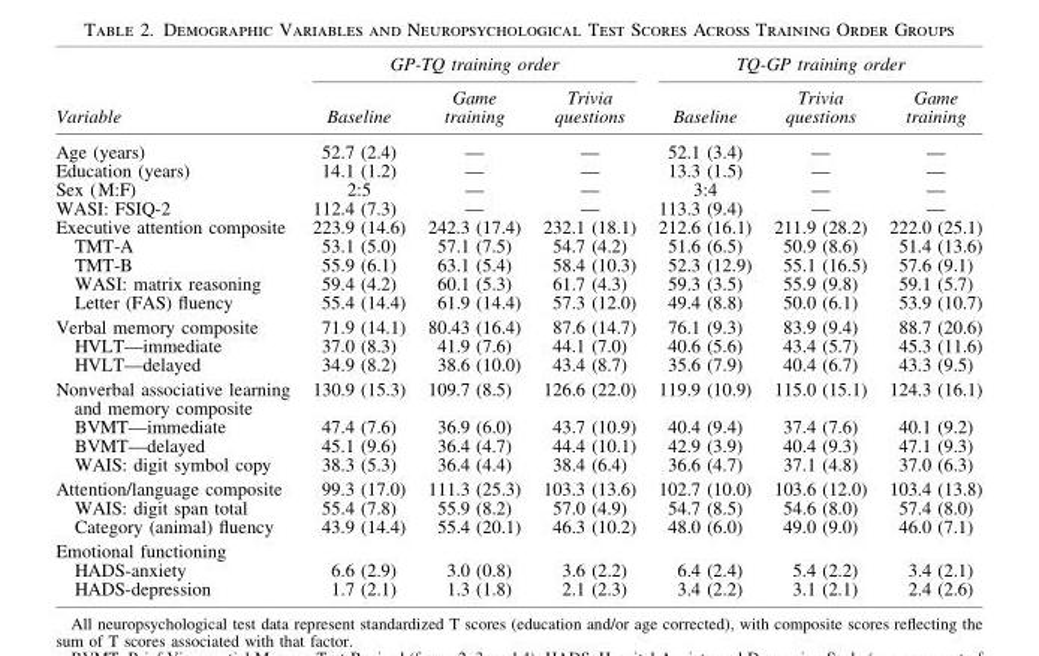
<table><thead><tr><td rowspan="2">Variable</td><td colspan="3">GP-TQ training order</td><td colspan="3">TQ-GP training order</td></tr><tr><td>Baseline</td><td>Game training</td><td>Trivia questions</td><td>Baseline</td><td>Trivia questions</td><td>Game training</td></tr></thead><tbody><tr><td>Age (years)</td><td>52.7 (2.4)</td><td>—</td><td>—</td><td>52.1 (3.4)</td><td>—</td><td>—</td></tr><tr><td>Education (years)</td><td>14.1 (1.2)</td><td>—</td><td>—</td><td>13.3 (1.5)</td><td>—</td><td>—</td></tr><tr><td>Sex (M:F)</td><td>2:5</td><td>—</td><td>—</td><td>3:4</td><td>—</td><td>—</td></tr><tr><td>WASI: FSIQ-2</td><td>112.4 (7.3)</td><td>—</td><td>—</td><td>113.3 (9.4)</td><td>—</td><td>—</td></tr><tr><td>Executive attention composite</td><td>223.9 (14.6)</td><td>242.3 (17.4)</td><td>232.1 (18.1)</td><td>212.6 (16.1)</td><td>211.9 (28.2)</td><td>222.0 (25.1)</td></tr><tr><td>TMT-A</td><td>53.1 (5.0)</td><td>57.1 (7.5)</td><td>54.7 (4.2)</td><td>51.6 (6.5)</td><td>50.9 (8.6)</td><td>51.4 (13.6)</td></tr><tr><td>TMT-B</td><td>55.9 (6.1)</td><td>63.1 (5.4)</td><td>58.4 (10.3)</td><td>52.3 (12.9)</td><td>55.1 (16.5)</td><td>57.6 (9.1)</td></tr><tr><td>WASI: matrix reasoning</td><td>59.4 (4.2)</td><td>60.1 (5.3)</td><td>61.7 (4.3)</td><td>59.3 (3.5)</td><td>55.9 (9.8)</td><td>59.1 (5.7)</td></tr><tr><td>Letter (FAS) fluency</td><td>55.4 (14.4)</td><td>61.9 (14.4)</td><td>57.3 (12.0)</td><td>49.4 (8.8)</td><td>50.0 (6.1)</td><td>53.9 (10.7)</td></tr><tr><td>Verbal memory composite</td><td>71.9 (14.1)</td><td>80.43 (16.4)</td><td>87.6 (14.7)</td><td>76.1 (9.3)</td><td>83.9 (9.4)</td><td>88.7 (20.6)</td></tr><tr><td>HVLT—immediate</td><td>37.0 (8.3)</td><td>41.9 (7.6)</td><td>44.1 (7.0)</td><td>40.6 (5.6)</td><td>43.4 (5.7)</td><td>45.3 (11.6)</td></tr><tr><td>HVLT—delayed</td><td>34.9 (8.2)</td><td>38.6 (10.0)</td><td>43.4 (8.7)</td><td>35.6 (7.9)</td><td>40.4 (6.7)</td><td>43.3 (9.5)</td></tr><tr><td>Nonverbal associative learning and memory composite</td><td>130.9 (15.3)</td><td>109.7 (8.5)</td><td>126.6 (22.0)</td><td>119.9 (10.9)</td><td>115.0 (15.1)</td><td>124.3 (16.1)</td></tr><tr><td>BVMT—immediate</td><td>47.4 (7.6)</td><td>36.9 (6.0)</td><td>43.7 (10.9)</td><td>40.4 (9.4)</td><td>37.4 (7.6)</td><td>40.1 (9.2)</td></tr><tr><td>BVMT—delayed</td><td>45.1 (9.6)</td><td>36.4 (4.7)</td><td>44.4 (10.1)</td><td>42.9 (3.9)</td><td>40.4 (9.3)</td><td>47.1 (9.3)</td></tr><tr><td>WAIS: digit symbol copy</td><td>38.3 (5.3)</td><td>36.4 (4.4)</td><td>38.4 (6.4)</td><td>36.6 (4.7)</td><td>37.1 (4.8)</td><td>37.0 (6.3)</td></tr><tr><td>Attention/language composite</td><td>99.3 (17.0)</td><td>111.3 (25.3)</td><td>103.3 (13.6)</td><td>102.7 (10.0)</td><td>103.6 (12.0)</td><td>103.4 (13.8)</td></tr><tr><td>WAIS: digit span total</td><td>55.4 (7.8)</td><td>55.9 (8.2)</td><td>57.0 (4.9)</td><td>54.7 (8.5)</td><td>54.6 (8.0)</td><td>57.4 (8.0)</td></tr><tr><td>Category (animal) fluency</td><td>43.9 (14.4)</td><td>55.4 (20.1)</td><td>46.3 (10.2)</td><td>48.0 (6.0)</td><td>49.0 (9.0)</td><td>46.0 (7.1)</td></tr><tr><td colspan="7">Emotional functioning</td></tr><tr><td>HADS-anxiety</td><td>6.6 (2.9)</td><td>3.0 (0.8)</td><td>3.6 (2.2)</td><td>6.4 (2.4)</td><td>5.4 (2.2)</td><td>3.4 (2.1)</td></tr><tr><td>HADS-depression</td><td>1.7 (2.1)</td><td>1.3 (1.8)</td><td>2.1 (2.3)</td><td>3.4 (2.2)</td><td>3.1 (2.1)</td><td>2.4 (2.6)</td></tr></tbody></table>